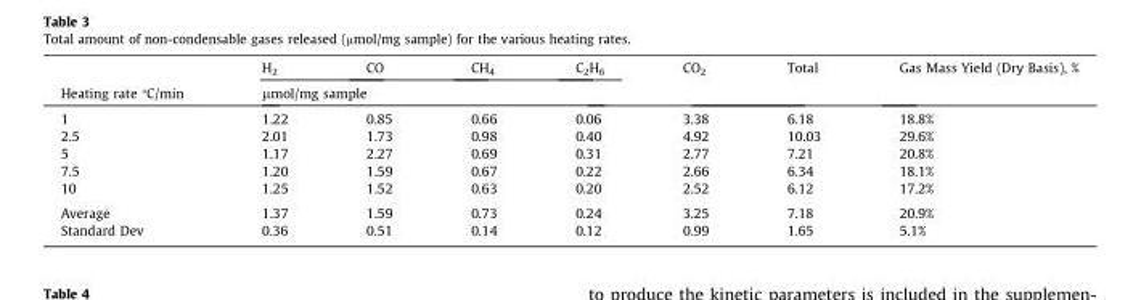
<table><thead><tr><td rowspan="2">Heating rate °C/min</td><td>H<sub>2</sub></td><td>CO</td><td>CH<sub>4</sub></td><td>C<sub>2</sub>H<sub>6</sub></td><td rowspan="2">CO<sub>2</sub></td><td rowspan="2">Total</td><td rowspan="2">Gas Mass Yield (Dry Basis), %</td></tr><tr><td colspan="4">μmol/mg sample</td></tr></thead><tbody><tr><td>1</td><td>1.22</td><td>0.85</td><td>0.66</td><td>0.06</td><td>3.38</td><td>6.18</td><td>18.8%</td></tr><tr><td>2.5</td><td>2.01</td><td>1.73</td><td>0.98</td><td>0.40</td><td>4.92</td><td>10.03</td><td>29.6%</td></tr><tr><td>5</td><td>1.17</td><td>2.27</td><td>0.69</td><td>0.31</td><td>2.77</td><td>7.21</td><td>20.8%</td></tr><tr><td>7.5</td><td>1.20</td><td>1.59</td><td>0.67</td><td>0.22</td><td>2.66</td><td>6.34</td><td>18.1%</td></tr><tr><td>10</td><td>1.25</td><td>1.52</td><td>0.63</td><td>0.20</td><td>2.52</td><td>6.12</td><td>17.2%</td></tr><tr><td>Average</td><td>1.37</td><td>1.59</td><td>0.73</td><td>0.24</td><td>3.25</td><td>7.18</td><td>20.9%</td></tr><tr><td>Standard Dev</td><td>0.36</td><td>0.51</td><td>0.14</td><td>0.12</td><td>0.99</td><td>1.65</td><td>5.1%</td></tr></tbody></table>